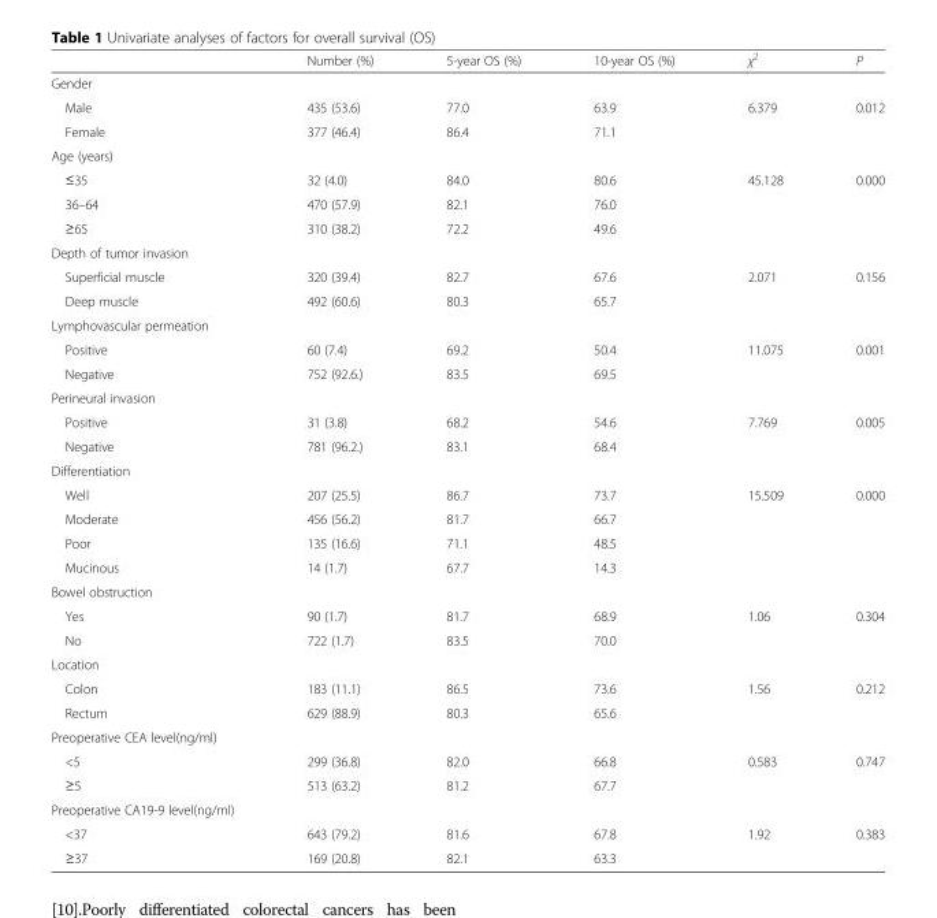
<table><thead><tr><td></td><td>Number (%)</td><td>5-year OS (%)</td><td>10-year OS (%)</td><td>χ<sup>2</sup></td><td>P</td></tr></thead><tbody><tr><td colspan="6">Gender</td></tr><tr><td>Male</td><td>435 (53.6)</td><td>77.0</td><td>63.9</td><td>6.379</td><td>0.012</td></tr><tr><td>Female</td><td>377 (46.4)</td><td>86.4</td><td>71.1</td><td></td><td></td></tr><tr><td colspan="6">Age (years)</td></tr><tr><td>≤35</td><td>32 (4.0)</td><td>84.0</td><td>80.6</td><td>45.128</td><td>0.000</td></tr><tr><td>36–64</td><td>470 (57.9)</td><td>82.1</td><td>76.0</td><td></td><td></td></tr><tr><td>≥65</td><td>310 (38.2)</td><td>72.2</td><td>49.6</td><td></td><td></td></tr><tr><td colspan="6">Depth of tumor invasion</td></tr><tr><td>Superficial muscle</td><td>320 (39.4)</td><td>82.7</td><td>67.6</td><td>2.071</td><td>0.156</td></tr><tr><td>Deep muscle</td><td>492 (60.6)</td><td>80.3</td><td>65.7</td><td></td><td></td></tr><tr><td colspan="6">Lymphovascular permeation</td></tr><tr><td>Positive</td><td>60 (7.4)</td><td>69.2</td><td>50.4</td><td>11.075</td><td>0.001</td></tr><tr><td>Negative</td><td>752 (92.6.)</td><td>83.5</td><td>69.5</td><td></td><td></td></tr><tr><td colspan="6">Perineural invasion</td></tr><tr><td>Positive</td><td>31 (3.8)</td><td>68.2</td><td>54.6</td><td>7.769</td><td>0.005</td></tr><tr><td>Negative</td><td>781 (96.2.)</td><td>83.1</td><td>68.4</td><td></td><td></td></tr><tr><td colspan="6">Differentiation</td></tr><tr><td>Well</td><td>207 (25.5)</td><td>86.7</td><td>73.7</td><td>15.509</td><td>0.000</td></tr><tr><td>Moderate</td><td>456 (56.2)</td><td>81.7</td><td>66.7</td><td></td><td></td></tr><tr><td>Poor</td><td>135 (16.6)</td><td>71.1</td><td>48.5</td><td></td><td></td></tr><tr><td>Mucinous</td><td>14 (1.7)</td><td>67.7</td><td>14.3</td><td></td><td></td></tr><tr><td colspan="6">Bowel obstruction</td></tr><tr><td>Yes</td><td>90 (1.7)</td><td>81.7</td><td>68.9</td><td>1.06</td><td>0.304</td></tr><tr><td>No</td><td>722 (1.7)</td><td>83.5</td><td>70.0</td><td></td><td></td></tr><tr><td colspan="6">Location</td></tr><tr><td>Colon</td><td>183 (11.1)</td><td>86.5</td><td>73.6</td><td>1.56</td><td>0.212</td></tr><tr><td>Rectum</td><td>629 (88.9)</td><td>80.3</td><td>65.6</td><td></td><td></td></tr><tr><td colspan="6">Preoperative CEA level(ng/ml)</td></tr><tr><td>&lt;5</td><td>299 (36.8)</td><td>82.0</td><td>66.8</td><td>0.583</td><td>0.747</td></tr><tr><td>≥5</td><td>513 (63.2)</td><td>81.2</td><td>67.7</td><td></td><td></td></tr><tr><td colspan="6">Preoperative CA19-9 level(ng/ml)</td></tr><tr><td>&lt;37</td><td>643 (79.2)</td><td>81.6</td><td>67.8</td><td>1.92</td><td>0.383</td></tr><tr><td>≥37</td><td>169 (20.8)</td><td>82.1</td><td>63.3</td><td></td><td></td></tr></tbody></table>